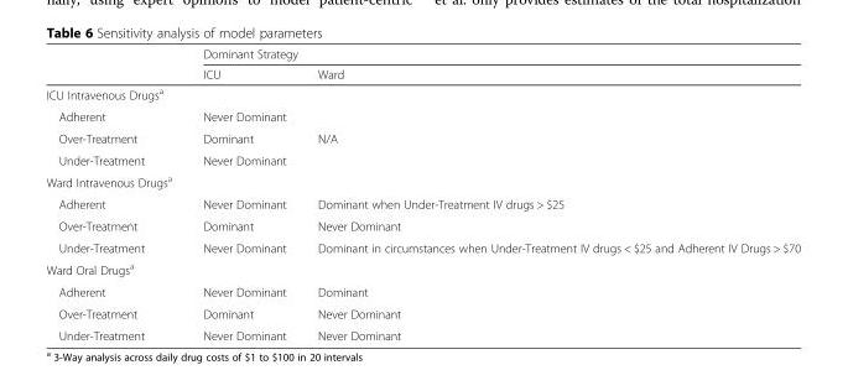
<table><thead><tr><td rowspan="2"></td><td colspan="2">Dominant Strategy</td></tr><tr><td>ICU</td><td>Ward</td></tr></thead><tbody><tr><td colspan="3">ICU Intravenous Drugs<sup>a</sup></td></tr><tr><td>Adherent</td><td>Never Dominant</td><td></td></tr><tr><td>Over-Treatment</td><td>Dominant</td><td>N/A</td></tr><tr><td>Under-Treatment</td><td>Never Dominant</td><td></td></tr><tr><td colspan="3">Ward Intravenous Drugs<sup>a</sup></td></tr><tr><td>Adherent</td><td>Never Dominant</td><td>Dominant when Under-Treatment IV drugs &gt; $25</td></tr><tr><td>Over-Treatment</td><td>Dominant</td><td>Never Dominant</td></tr><tr><td>Under-Treatment</td><td>Never Dominant</td><td>Dominant in circumstances when Under-Treatment IV drugs &lt; $25 and Adherent IV Drugs &gt; $70</td></tr><tr><td colspan="3">Ward Oral Drugs<sup>a</sup></td></tr><tr><td>Adherent</td><td>Never Dominant</td><td>Dominant</td></tr><tr><td>Over-Treatment</td><td>Dominant</td><td>Never Dominant</td></tr><tr><td>Under-Treatment</td><td>Never Dominant</td><td>Never Dominant</td></tr></tbody></table>